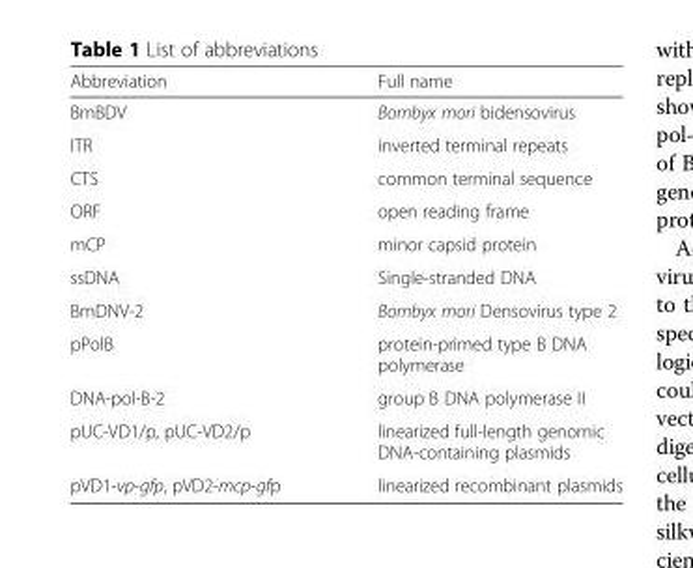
<table><thead><tr><td>Abbreviation</td><td>Full name</td></tr></thead><tbody><tr><td>BmBDV</td><td>Bombyx mori bidensovirus</td></tr><tr><td>ITR</td><td>inverted terminal repeats</td></tr><tr><td>CTS</td><td>common terminal sequence</td></tr><tr><td>ORF</td><td>open reading frame</td></tr><tr><td>mCP</td><td>minor capsid protein</td></tr><tr><td>ssDNA</td><td>Single-stranded DNA</td></tr><tr><td>BmDNV-2</td><td>Bombyx mori Densovirus type 2</td></tr><tr><td>pPolB</td><td>protein-primed type B DNA polymerase</td></tr><tr><td>DNA-pol-B-2</td><td>group B DNA polymerase II</td></tr><tr><td>pUC-VD1/p, pUC-VD2/p</td><td>linearized full-length genomic DNA-containing plasmids</td></tr><tr><td>pVD1-vp-gfp, pVD2-mcp-gfp</td><td>linearized recombinant plasmids</td></tr></tbody></table>